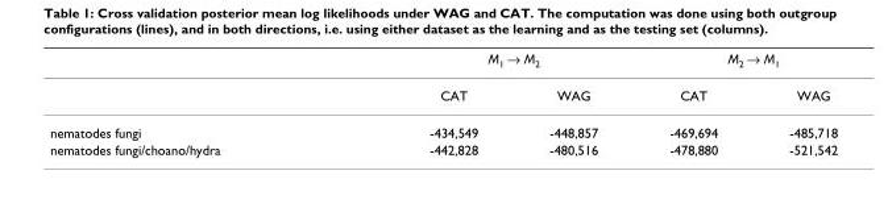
<table><thead><tr><td rowspan="2"></td><td colspan="2">M1 → M2</td><td colspan="2">M2 → M1</td></tr><tr><td>CAT</td><td>WAG</td><td>CAT</td><td>WAG</td></tr></thead><tbody><tr><td>nematodes fungi</td><td>-434,549</td><td>-448,857</td><td>-469,694</td><td>-485,718</td></tr><tr><td>nematodes fungi/choano/hydra</td><td>-442,828</td><td>-480,516</td><td>-478,880</td><td>-521,542</td></tr></tbody></table>